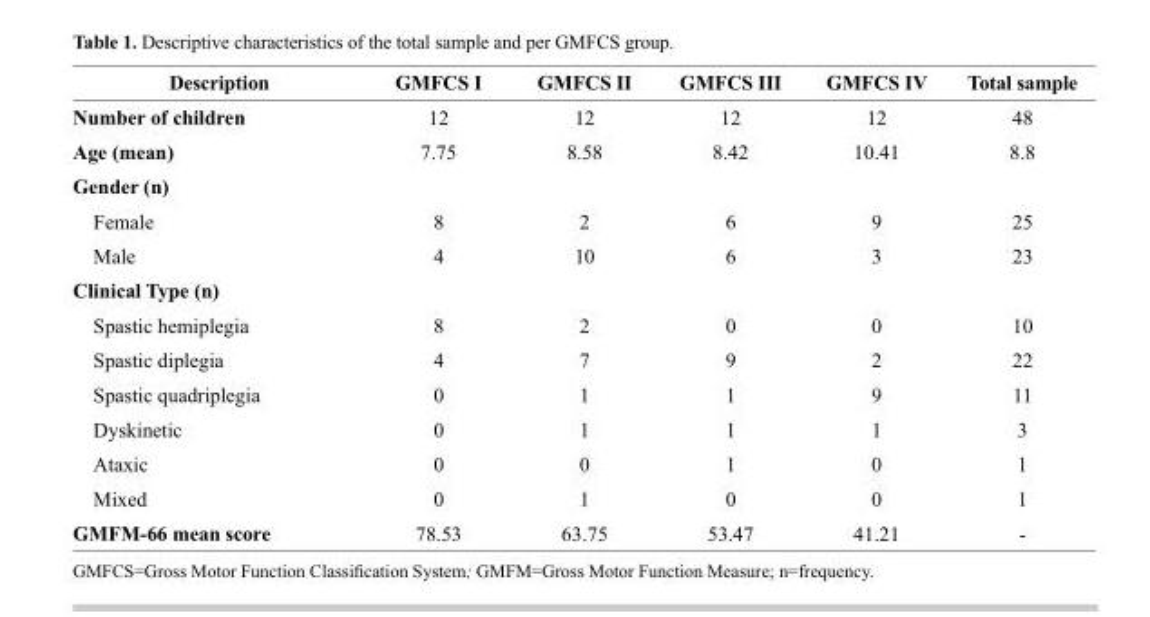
<table><thead><tr><td>Description</td><td>GMFCS I</td><td>GMFCS II</td><td>GMFCS III</td><td>GMFCS IV</td><td>Total sample</td></tr></thead><tbody><tr><td>Number of children</td><td>12</td><td>12</td><td>12</td><td>12</td><td>48</td></tr><tr><td>Age (mean)</td><td>7.75</td><td>8.58</td><td>8.42</td><td>10.41</td><td>8.8</td></tr><tr><td colspan="6">Gender (n)</td></tr><tr><td>Female</td><td>8</td><td>2</td><td>6</td><td>9</td><td>25</td></tr><tr><td>Male</td><td>4</td><td>10</td><td>6</td><td>3</td><td>23</td></tr><tr><td colspan="6">Clinical Type (n)</td></tr><tr><td>Spastic hemiplegia</td><td>8</td><td>2</td><td>0</td><td>0</td><td>10</td></tr><tr><td>Spastic diplegia</td><td>4</td><td>7</td><td>9</td><td>2</td><td>22</td></tr><tr><td>Spastic quadriplegia</td><td>0</td><td>1</td><td>1</td><td>9</td><td>11</td></tr><tr><td>Dyskinetic</td><td>0</td><td>1</td><td>1</td><td>1</td><td>3</td></tr><tr><td>Ataxic</td><td>0</td><td>0</td><td>1</td><td>0</td><td>1</td></tr><tr><td>Mixed</td><td>0</td><td>1</td><td>0</td><td>0</td><td>1</td></tr><tr><td>GMFM-66 mean score</td><td>78.53</td><td>63.75</td><td>53.47</td><td>41.21</td><td>-</td></tr></tbody></table>